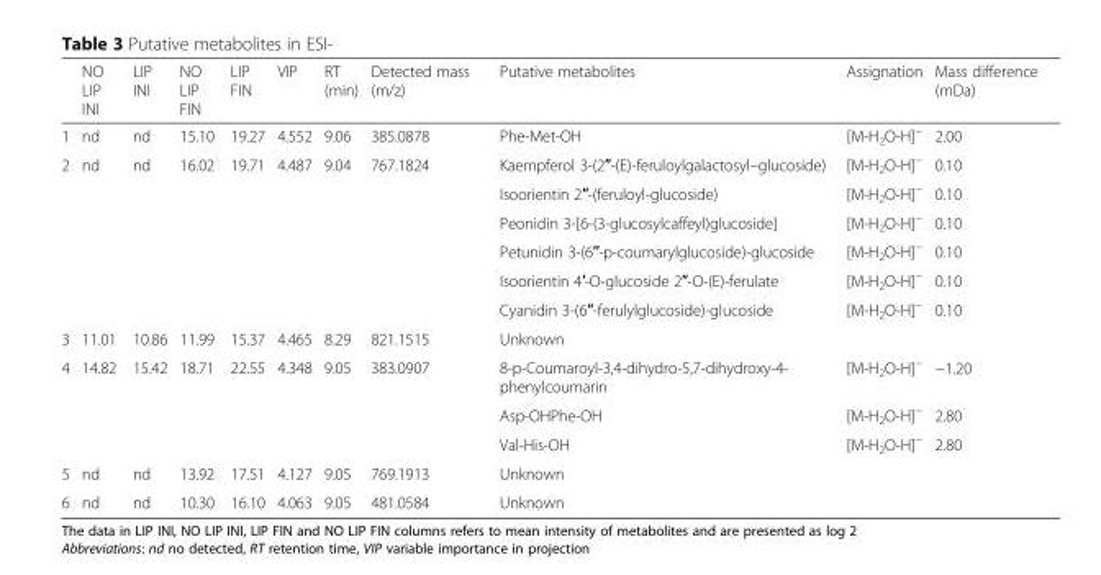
<table><thead><tr><td></td><td>NO LIP INI</td><td>LIP INI</td><td>NO LIP FIN</td><td>LIP FIN</td><td>VIP</td><td>RT (min)</td><td>Detected mass (m/z)</td><td>Putative metabolites</td><td>Assignation</td><td>Mass difference (mDa)</td></tr></thead><tbody><tr><td>1</td><td>nd</td><td>nd</td><td>15.10</td><td>19.27</td><td>4.552</td><td>9.06</td><td>385.0878</td><td>Phe-Met-OH</td><td>[M-H<sub>2</sub>O-H]<sup>−</sup></td><td>2.00</td></tr><tr><td rowspan="6">2</td><td>nd</td><td>nd</td><td>16.02</td><td>19.71</td><td>4.487</td><td>9.04</td><td>767.1824</td><td>Kaempferol 3-(2′′-(E)-feruloylgalactosyl–glucoside)</td><td>[M-H<sub>2</sub>O-H]<sup>−</sup></td><td>0.10</td></tr><tr><td></td><td></td><td></td><td></td><td></td><td></td><td></td><td>Isoorientin 2′′-(feruloyl-glucoside)</td><td>[M-H<sub>2</sub>O-H]<sup>−</sup></td><td>0.10</td></tr><tr><td></td><td></td><td></td><td></td><td></td><td></td><td></td><td>Peonidin 3-[6-(3-glucosylcaffeyl)glucoside]</td><td>[M-H<sub>2</sub>O-H]<sup>−</sup></td><td>0.10</td></tr><tr><td></td><td></td><td></td><td></td><td></td><td></td><td></td><td>Petunidin 3-(6′′-p-coumarylglucoside)-glucoside</td><td>[M-H<sub>2</sub>O-H]<sup>−</sup></td><td>0.10</td></tr><tr><td></td><td></td><td></td><td></td><td></td><td></td><td></td><td>Isoorientin 4′-O-glucoside 2′′-O-(E)-ferulate</td><td>[M-H<sub>2</sub>O-H]<sup>−</sup></td><td>0.10</td></tr><tr><td></td><td></td><td></td><td></td><td></td><td></td><td></td><td>Cyanidin 3-(6′′-ferulylglucoside)-glucoside</td><td>[M-H<sub>2</sub>O-H]<sup>−</sup></td><td>0.10</td></tr><tr><td>3</td><td>11.01</td><td>10.86</td><td>11.99</td><td>15.37</td><td>4.465</td><td>8.29</td><td>821.1515</td><td>Unknown</td><td></td><td></td></tr><tr><td rowspan="3">4</td><td>14.82</td><td>15.42</td><td>18.71</td><td>22.55</td><td>4.348</td><td>9.05</td><td>383.0907</td><td>8-p-Coumaroyl-3,4-dihydro-5,7-dihydroxy-4- phenylcoumarin</td><td>[M-H<sub>2</sub>O-H]<sup>−</sup></td><td>−1.20</td></tr><tr><td></td><td></td><td></td><td></td><td></td><td></td><td></td><td>Asp-OHPhe-OH</td><td>[M-H<sub>2</sub>O-H]<sup>−</sup></td><td>2.80</td></tr><tr><td></td><td></td><td></td><td></td><td></td><td></td><td></td><td>Val-His-OH</td><td>[M-H<sub>2</sub>O-H]<sup>−</sup></td><td>2.80</td></tr><tr><td>5</td><td>nd</td><td>nd</td><td>13.92</td><td>17.51</td><td>4.127</td><td>9.05</td><td>769.1913</td><td>Unknown</td><td></td><td></td></tr><tr><td>6</td><td>nd</td><td>nd</td><td>10.30</td><td>16.10</td><td>4.063</td><td>9.05</td><td>481.0584</td><td>Unknown</td><td></td><td></td></tr></tbody></table>